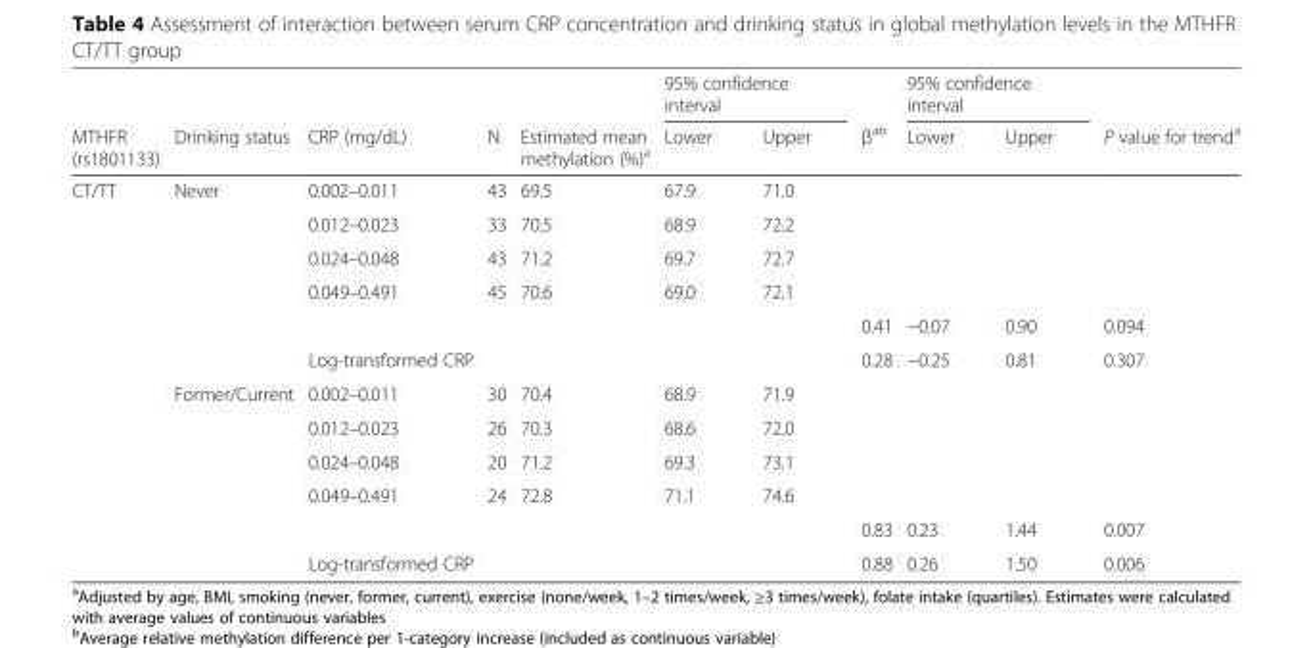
<table><thead><tr><td rowspan="2">MTHFR (rs1801133)</td><td rowspan="2">Drinking status</td><td rowspan="2">CRP (mg/dL)</td><td rowspan="2">N</td><td rowspan="2">Estimated mean methylation (%)<sup>a</sup></td><td colspan="2">95% confidence interval</td><td rowspan="2">β<sup>ab</sup></td><td colspan="2">95% confidence interval</td><td rowspan="2">P value for trend<sup>a</sup></td></tr><tr><td>Lower</td><td>Upper</td><td>Lower</td><td>Upper</td></tr></thead><tbody><tr><td rowspan="12">CT/TT</td><td>Never</td><td>0.002–0.011</td><td>43</td><td>69.5</td><td>67.9</td><td>71.0</td><td></td><td></td><td></td><td></td></tr><tr><td></td><td>0.012–0.023</td><td>33</td><td>70.5</td><td>68.9</td><td>72.2</td><td></td><td></td><td></td><td></td></tr><tr><td></td><td>0.024–0.048</td><td>43</td><td>71.2</td><td>69.7</td><td>72.7</td><td></td><td></td><td></td><td></td></tr><tr><td></td><td>0.049–0.491</td><td>45</td><td>70.6</td><td>69.0</td><td>72.1</td><td></td><td></td><td></td><td></td></tr><tr><td></td><td></td><td></td><td></td><td></td><td></td><td>0.41</td><td>−0.07</td><td>0.90</td><td>0.094</td></tr><tr><td></td><td>Log-transformed CRP</td><td></td><td></td><td></td><td></td><td>0.28</td><td>−0.25</td><td>0.81</td><td>0.307</td></tr><tr><td>Former/Current</td><td>0.002–0.011</td><td>30</td><td>70.4</td><td>68.9</td><td>71.9</td><td></td><td></td><td></td><td></td></tr><tr><td></td><td>0.012–0.023</td><td>26</td><td>70.3</td><td>68.6</td><td>72.0</td><td></td><td></td><td></td><td></td></tr><tr><td></td><td>0.024–0.048</td><td>20</td><td>71.2</td><td>69.3</td><td>73.1</td><td></td><td></td><td></td><td></td></tr><tr><td></td><td>0.049–0.491</td><td>24</td><td>72.8</td><td>71.1</td><td>74.6</td><td></td><td></td><td></td><td></td></tr><tr><td></td><td></td><td></td><td></td><td></td><td></td><td>0.83</td><td>0.23</td><td>1.44</td><td>0.007</td></tr><tr><td></td><td>Log-transformed CRP</td><td></td><td></td><td></td><td></td><td>0.88</td><td>0.26</td><td>1.50</td><td>0.006</td></tr></tbody></table>